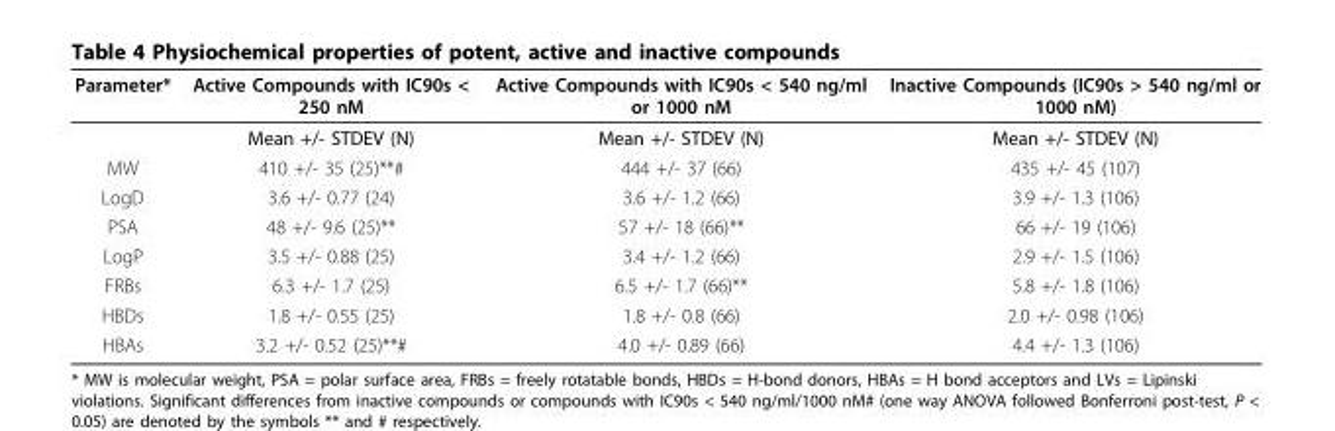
<table><thead><tr><td rowspan="2">Parameter*</td><td rowspan="2">Active Compounds with IC90s &lt; 250 nM Mean +/- STDEV (N)</td><td rowspan="2">Active Compounds with IC90s &lt; 540 ng/ml or 1000 nM Mean +/- STDEV (N)</td><td rowspan="2">Inactive Compounds (IC90s &gt; 540 ng/ml or 1000 nM) Mean +/- STDEV (N)</td></tr><tr></tr></thead><tbody><tr><td>MW</td><td>410 +/- 35 (25)**#</td><td>444 +/- 37 (66)</td><td>435 +/- 45 (107)</td></tr><tr><td>LogD</td><td>3.6 +/- 0.77 (24)</td><td>3.6 +/- 1.2 (66)</td><td>3.9 +/- 1.3 (106)</td></tr><tr><td>PSA</td><td>48 +/- 9.6 (25)**</td><td>57 +/- 18 (66)**</td><td>66 +/- 19 (106)</td></tr><tr><td>LogP</td><td>3.5 +/- 0.88 (25)</td><td>3.4 +/- 1.2 (66)</td><td>2.9 +/- 1.5 (106)</td></tr><tr><td>FRBs</td><td>6.3 +/- 1.7 (25)</td><td>6.5 +/- 1.7 (66)**</td><td>5.8 +/- 1.8 (106)</td></tr><tr><td>HBDs</td><td>1.8 +/- 0.55 (25)</td><td>1.8 +/- 0.8 (66)</td><td>2.0 +/- 0.98 (106)</td></tr><tr><td>HBAs</td><td>3.2 +/- 0.52 (25)**#</td><td>4.0 +/- 0.89 (66)</td><td>4.4 +/- 1.3 (106)</td></tr></tbody></table>